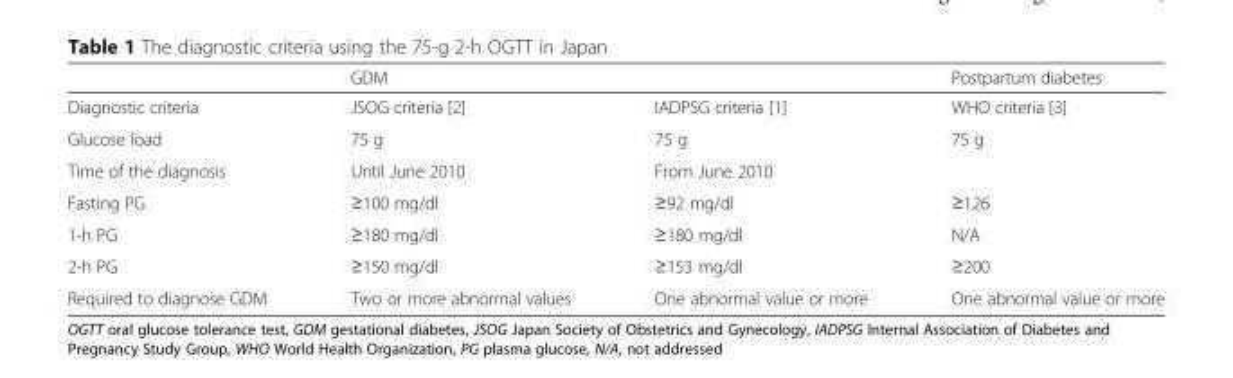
<table><thead><tr><td rowspan="2">Diagnostic criteria</td><td colspan="2">GDM</td><td rowspan="2">Postpartum diabetes WHO criteria [3]</td></tr><tr><td>JSOG criteria [2]</td><td>IADPSG criteria [1]</td></tr></thead><tbody><tr><td>Glucose load</td><td>75 g</td><td>75 g</td><td>75 g</td></tr><tr><td>Time of the diagnosis</td><td>Until June 2010</td><td>From June 2010</td><td></td></tr><tr><td>Fasting PG</td><td>≥100 mg/dl</td><td>≥92 mg/dl</td><td>≥126</td></tr><tr><td>1-h PG</td><td>≥180 mg/dl</td><td>≥180 mg/dl</td><td>N/A</td></tr><tr><td>2-h PG</td><td>≥150 mg/dl</td><td>≥153 mg/dl</td><td>≥200</td></tr><tr><td>Required to diagnose GDM</td><td>Two or more abnormal values</td><td>One abnormal value or more</td><td>One abnormal value or more</td></tr></tbody></table>